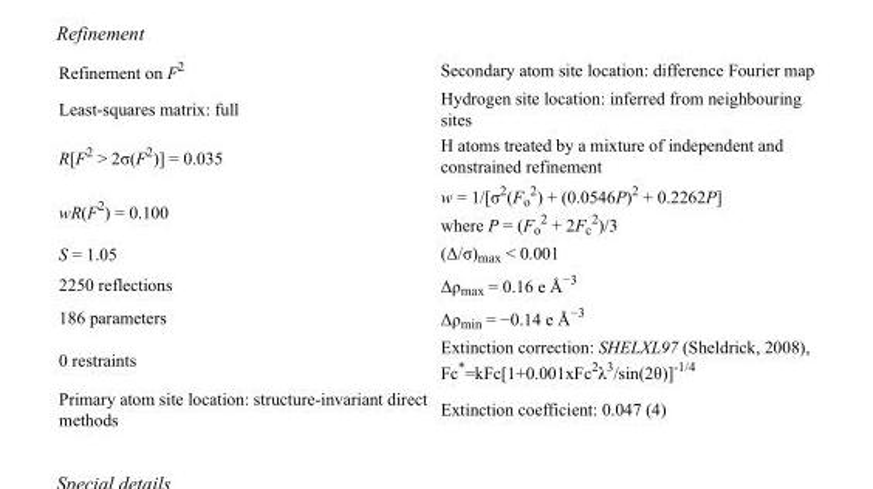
<table><tbody><tr><td>Refinement on F<sup>2</sup></td><td>Secondary atom site location: difference Fourier map</td></tr><tr><td>Least-squares matrix: full</td><td>Hydrogen site location: inferred from neighbouring sites</td></tr><tr><td>R[F<sup>2</sup> &gt; 2σ(F<sup>2</sup>)] = 0.035</td><td>H atoms treated by a mixture of independent and constrained refinement</td></tr><tr><td>wR(F<sup>2</sup>) = 0.100</td><td>w = 1/[σ<sup>2</sup>(F<sub>o</sub> <sup>2</sup>) + (0.0546P)<sup>2</sup> + 0.2262P] where P = (F<sub>o</sub> <sup>2</sup> + 2F<sub>c</sub> <sup>2</sup>)/3</td></tr><tr><td>S = 1.05</td><td>(Δ/σ)<sub>max</sub> &lt; 0.001</td></tr><tr><td>2250 reflections</td><td>Δρ<sub>max</sub> = 0.16 e Å<sup>−3</sup></td></tr><tr><td>186 parameters</td><td>Δρ<sub>min</sub> = −0.14 e Å<sup>−3</sup></td></tr><tr><td>0 restraints</td><td>Extinction correction: SHELXL97 (Sheldrick, 2008), Fc*=kFc[1+0.001xFc<sup>2</sup>λ<sup>3</sup>/sin(2θ)]<sup>-1/4</sup></td></tr><tr><td>Primary atom site location: structure-invariant direct methods</td><td>Extinction coefficient: 0.047 (4)</td></tr></tbody></table>